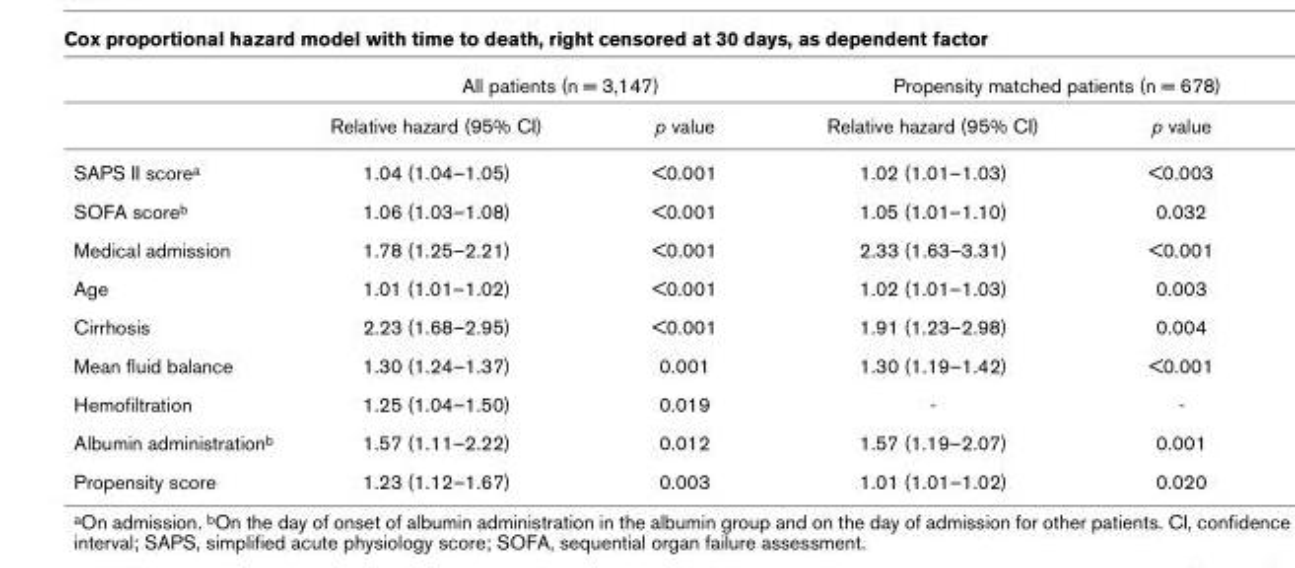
<table><thead><tr><td rowspan="2"></td><td colspan="2">All patients (n = 3,147)</td><td colspan="2">Propensity matched patients (n = 678)</td></tr><tr><td>Relative hazard (95% CI)</td><td>p value</td><td>Relative hazard (95% CI)</td><td>p value</td></tr></thead><tbody><tr><td>SAPS II scorea</td><td>1.04 (1.04–1.05)</td><td>&lt;0.001</td><td>1.02 (1.01–1.03)</td><td>&lt;0.003</td></tr><tr><td>SOFA scoreb</td><td>1.06 (1.03–1.08)</td><td>&lt;0.001</td><td>1.05 (1.01–1.10)</td><td>0.032</td></tr><tr><td>Medical admission</td><td>1.78 (1.25–2.21)</td><td>&lt;0.001</td><td>2.33 (1.63–3.31)</td><td>&lt;0.001</td></tr><tr><td>Age</td><td>1.01 (1.01–1.02)</td><td>&lt;0.001</td><td>1.02 (1.01–1.03)</td><td>0.003</td></tr><tr><td>Cirrhosis</td><td>2.23 (1.68–2.95)</td><td>&lt;0.001</td><td>1.91 (1.23–2.98)</td><td>0.004</td></tr><tr><td>Mean fluid balance</td><td>1.30 (1.24–1.37)</td><td>0.001</td><td>1.30 (1.19–1.42)</td><td>&lt;0.001</td></tr><tr><td>Hemofiltration</td><td>1.25 (1.04–1.50)</td><td>0.019</td><td>-</td><td>-</td></tr><tr><td>Albumin administrationb</td><td>1.57 (1.11–2.22)</td><td>0.012</td><td>1.57 (1.19–2.07)</td><td>0.001</td></tr><tr><td>Propensity score</td><td>1.23 (1.12–1.67)</td><td>0.003</td><td>1.01 (1.01–1.02)</td><td>0.020</td></tr></tbody></table>